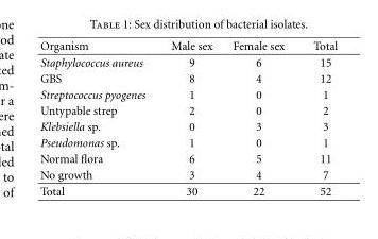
<table><thead><tr><td>Organism</td><td>Male sex</td><td>Female sex</td><td>Total</td></tr></thead><tbody><tr><td>Staphylococcus aureus</td><td>9</td><td>6</td><td>15</td></tr><tr><td>GBS</td><td>8</td><td>4</td><td>12</td></tr><tr><td>Streptococcus pyogenes</td><td>1</td><td>0</td><td>1</td></tr><tr><td>Untypable strep</td><td>2</td><td>0</td><td>2</td></tr><tr><td>Klebsiella sp.</td><td>0</td><td>3</td><td>3</td></tr><tr><td>Pseudomonas sp.</td><td>1</td><td>0</td><td>1</td></tr><tr><td>Normal flora</td><td>6</td><td>5</td><td>11</td></tr><tr><td>No growth</td><td>3</td><td>4</td><td>7</td></tr><tr><td>Total</td><td>30</td><td>22</td><td>52</td></tr></tbody></table>